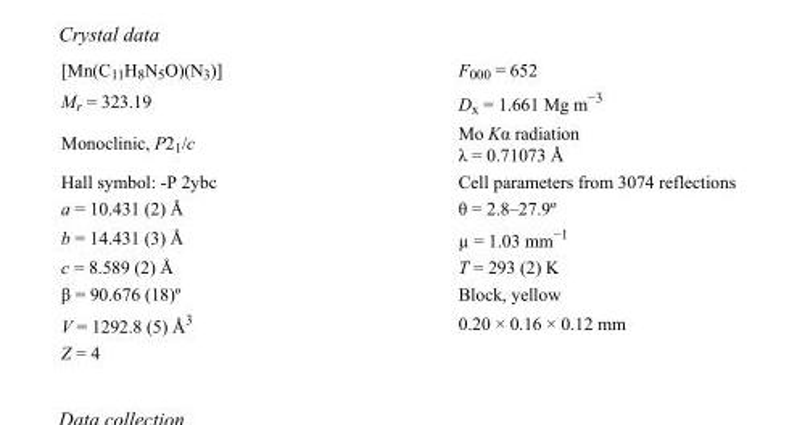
<table><tbody><tr><td>[Mn(C<sub>11</sub>H<sub>8</sub>N<sub>5</sub>O)(N<sub>3</sub>)]</td><td>F<sub>000</sub> = 652</td></tr><tr><td>M<sub>r</sub> = 323.19</td><td>D<sub>x</sub> = 1.661 Mg m<sup>−3</sup></td></tr><tr><td>Monoclinic, P2<sub>1</sub>/c</td><td>Mo Kα radiation λ = 0.71073 Å</td></tr><tr><td>Hall symbol: -P 2ybc</td><td>Cell parameters from 3074 reflections</td></tr><tr><td>a = 10.431 (2) Å</td><td>θ = 2.8–27.9º</td></tr><tr><td>b = 14.431 (3) Å</td><td>µ = 1.03 mm<sup>−1</sup></td></tr><tr><td>c = 8.589 (2) Å</td><td>T = 293 (2) K</td></tr><tr><td>β = 90.676 (18)º</td><td>Block, yellow</td></tr><tr><td>V = 1292.8 (5) Å<sup>3</sup></td><td>0.20 × 0.16 × 0.12 mm</td></tr><tr><td>Z = 4</td><td></td></tr></tbody></table>